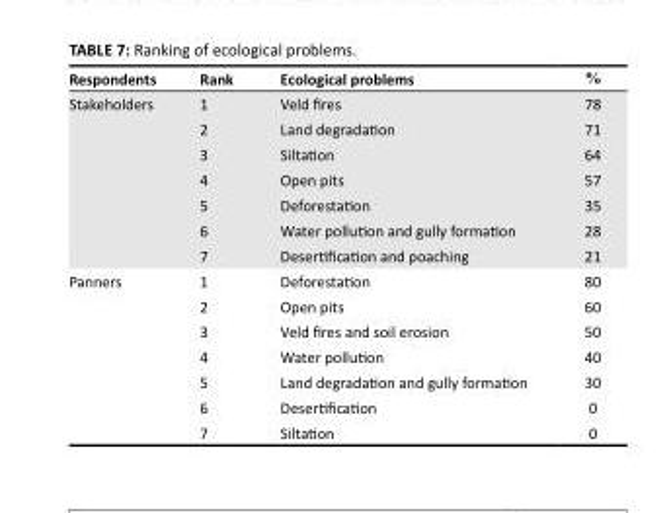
<table><thead><tr><td>Respondents</td><td>Rank</td><td>Ecological problems</td><td>%</td></tr></thead><tbody><tr><td rowspan="7">Stakeholders</td><td>1</td><td>Veld fires</td><td>78</td></tr><tr><td>2</td><td>Land degradation</td><td>71</td></tr><tr><td>3</td><td>Siltation</td><td>64</td></tr><tr><td>4</td><td>Open pits</td><td>57</td></tr><tr><td>5</td><td>Deforestation</td><td>35</td></tr><tr><td>6</td><td>Water pollution and gully formation</td><td>28</td></tr><tr><td>7</td><td>Desertification and poaching</td><td>21</td></tr><tr><td rowspan="7">Panners</td><td>1</td><td>Deforestation</td><td>80</td></tr><tr><td>2</td><td>Open pits</td><td>60</td></tr><tr><td>3</td><td>Veld fires and soil erosion</td><td>50</td></tr><tr><td>4</td><td>Water pollution</td><td>40</td></tr><tr><td>5</td><td>Land degradation and gully formation</td><td>30</td></tr><tr><td>6</td><td>Desertification</td><td>0</td></tr><tr><td>7</td><td>Siltation</td><td>0</td></tr></tbody></table>